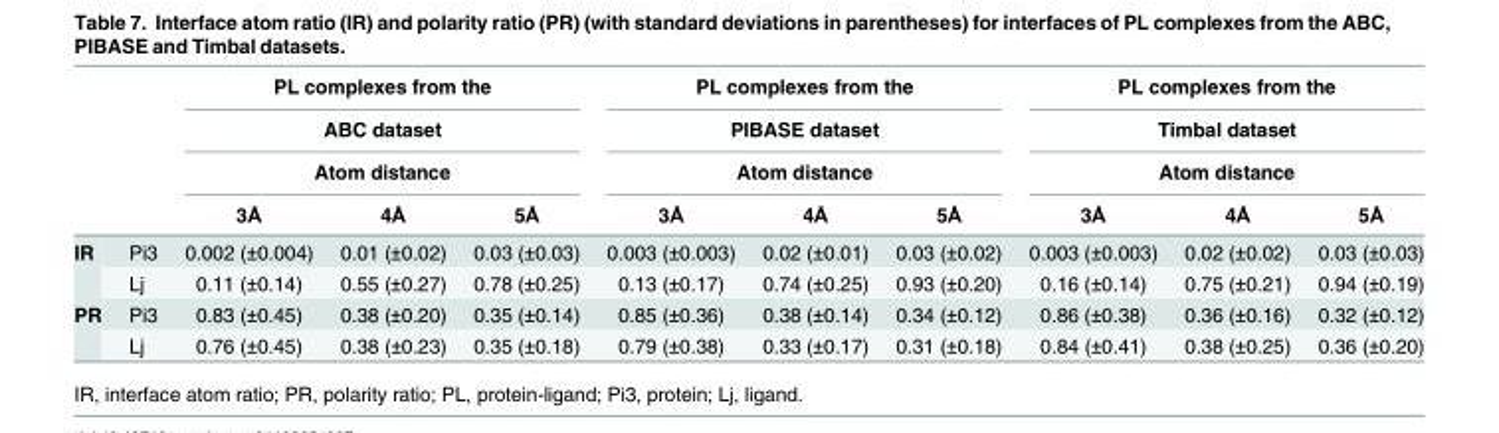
<table><thead><tr><td rowspan="4"></td><td rowspan="4"></td><td rowspan="3" colspan="3">PL complexes from the ABC dataset Atom distance</td><td rowspan="3" colspan="3">PL complexes from the PIBASE dataset Atom distance</td><td rowspan="3" colspan="3">PL complexes from the Timbal dataset Atom distance</td></tr><tr></tr><tr></tr><tr><td>3Å</td><td>4Å</td><td>5Å</td><td>3Å</td><td>4Å</td><td>5Å</td><td>3Å</td><td>4Å</td><td>5Å</td></tr></thead><tbody><tr><td rowspan="2">IR</td><td>Pi3</td><td>0.002 (±0.004)</td><td>0.01 (±0.02)</td><td>0.03 (±0.03)</td><td>0.003 (±0.003)</td><td>0.02 (±0.01)</td><td>0.03 (±0.02)</td><td>0.003 (±0.003)</td><td>0.02 (±0.02)</td><td>0.03 (±0.03)</td></tr><tr><td>Lj</td><td>0.11 (±0.14)</td><td>0.55 (±0.27)</td><td>0.78 (±0.25)</td><td>0.13 (±0.17)</td><td>0.74 (±0.25)</td><td>0.93 (±0.20)</td><td>0.16 (±0.14)</td><td>0.75 (±0.21)</td><td>0.94 (±0.19)</td></tr><tr><td rowspan="2">PR</td><td>Pi3</td><td>0.83 (±0.45)</td><td>0.38 (±0.20)</td><td>0.35 (±0.14)</td><td>0.85 (±0.36)</td><td>0.38 (±0.14)</td><td>0.34 (±0.12)</td><td>0.86 (±0.38)</td><td>0.36 (±0.16)</td><td>0.32 (±0.12)</td></tr><tr><td>Lj</td><td>0.76 (±0.45)</td><td>0.38 (±0.23)</td><td>0.35 (±0.18)</td><td>0.79 (±0.38)</td><td>0.33 (±0.17)</td><td>0.31 (±0.18)</td><td>0.84 (±0.41)</td><td>0.38 (±0.25)</td><td>0.36 (±0.20)</td></tr></tbody></table>